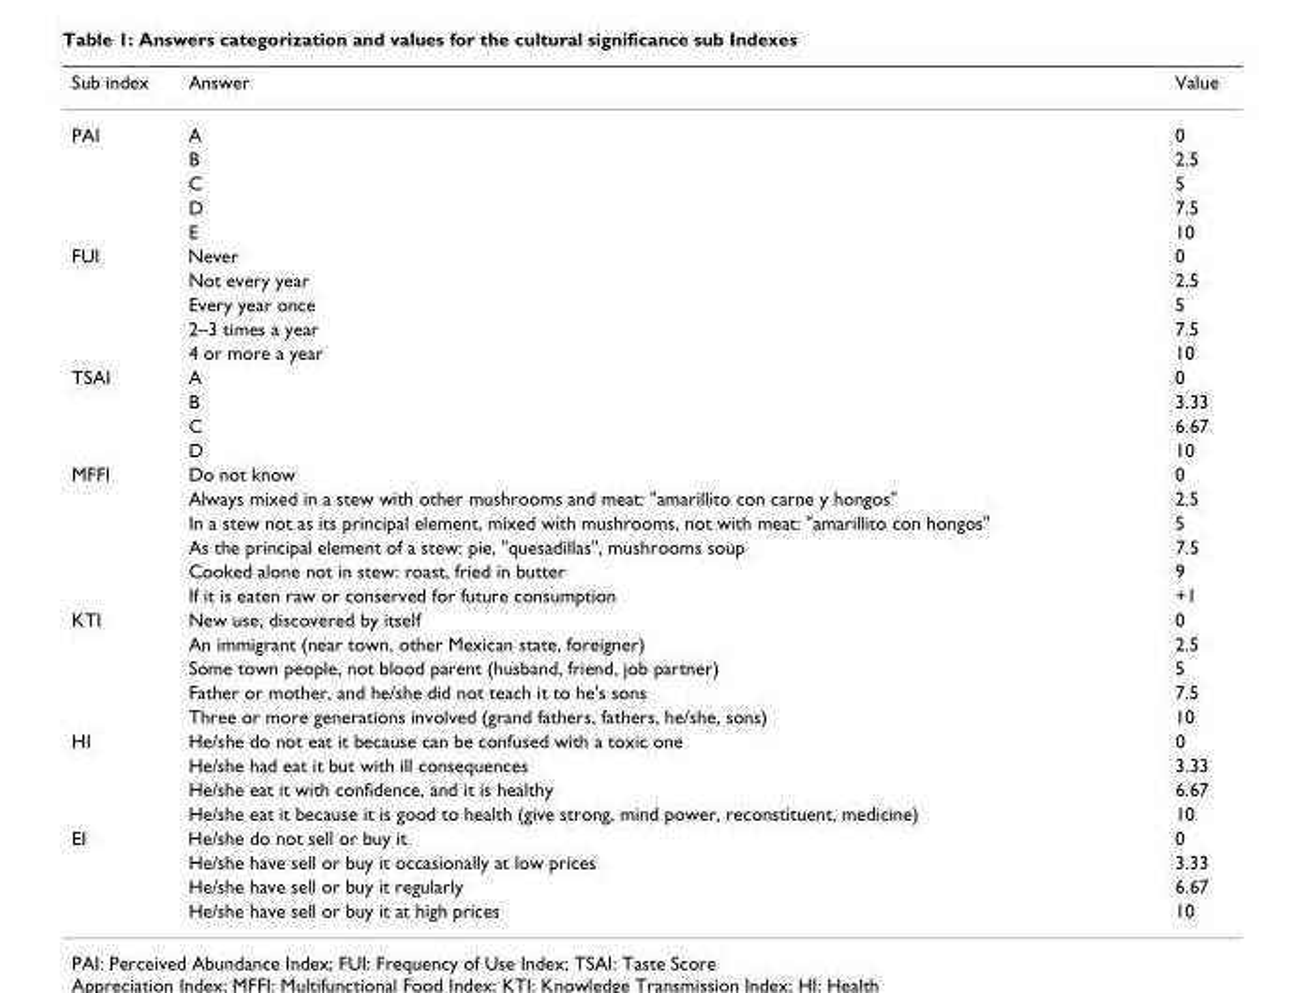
<table><thead><tr><td>Sub index</td><td>Answer</td><td>Value</td></tr></thead><tbody><tr><td rowspan="5">PAI</td><td>A</td><td>0</td></tr><tr><td>B</td><td>2.5</td></tr><tr><td>C</td><td>5</td></tr><tr><td>D</td><td>7.5</td></tr><tr><td>E</td><td>10</td></tr><tr><td rowspan="5">FUI</td><td>Never</td><td>0</td></tr><tr><td>Not every year</td><td>2.5</td></tr><tr><td>Every year once</td><td>5</td></tr><tr><td>2–3 times a year</td><td>7.5</td></tr><tr><td>4 or more a year</td><td>10</td></tr><tr><td rowspan="4">TSAI</td><td>A</td><td>0</td></tr><tr><td>B</td><td>3.33</td></tr><tr><td>C</td><td>6.67</td></tr><tr><td>D</td><td>10</td></tr><tr><td rowspan="6">MFFI</td><td>Do not know</td><td>0</td></tr><tr><td>Always mixed in a stew with other mushrooms and meat: &quot;amarillito con carne y hongos&quot;</td><td>2.5</td></tr><tr><td>In a stew not as its principal element, mixed with mushrooms, not with meat: &quot;amarillito con hongos&quot;</td><td>5</td></tr><tr><td>As the principal element of a stew: pie, &quot;quesadillas&quot;, mushrooms soup</td><td>7.5</td></tr><tr><td>Cooked alone not in stew: roast, fried in butter</td><td>9</td></tr><tr><td>If it is eaten raw or conserved for future consumption</td><td>+1</td></tr><tr><td rowspan="5">KTI</td><td>New use, discovered by itself</td><td>0</td></tr><tr><td>An immigrant (near town, other Mexican state, foreigner)</td><td>2.5</td></tr><tr><td>Some town people, not blood parent (husband, friend, job partner)</td><td>5</td></tr><tr><td>Father or mother, and he/she did not teach it to he&#x27;s sons</td><td>7.5</td></tr><tr><td>Three or more generations involved (grand fathers, fathers, he/she, sons)</td><td>10</td></tr><tr><td rowspan="4">HI</td><td>He/she do not eat it because can be confused with a toxic one</td><td>0</td></tr><tr><td>He/she had eat it but with ill consequences</td><td>3.33</td></tr><tr><td>He/she eat it with confidence, and it is healthy</td><td>6.67</td></tr><tr><td>He/she eat it because it is good to health (give strong, mind power, reconstituent, medicine)</td><td>10</td></tr><tr><td rowspan="4">EI</td><td>He/she do not sell or buy it</td><td>0</td></tr><tr><td>He/she have sell or buy it occasionally at low prices</td><td>3.33</td></tr><tr><td>He/she have sell or buy it regularly</td><td>6.67</td></tr><tr><td>He/she have sell or buy it at high prices</td><td>10</td></tr></tbody></table>